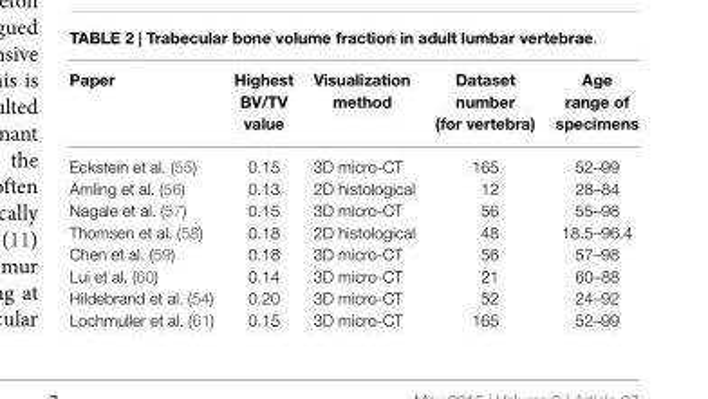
<table><thead><tr><td>Paper</td><td>Highest BV/TV value</td><td>Visualization method</td><td>Dataset number (for vertebra)</td><td>Age range of specimens</td></tr></thead><tbody><tr><td>Eckstein et al. (55)</td><td>0.15</td><td>3D micro-CT</td><td>165</td><td>52–99</td></tr><tr><td>Amling et al. (56)</td><td>0.13</td><td>2D histological</td><td>12</td><td>28–84</td></tr><tr><td>Nagale et al. (57)</td><td>0.15</td><td>3D micro-CT</td><td>56</td><td>55–98</td></tr><tr><td>Thomsen et al. (58)</td><td>0.18</td><td>2D histological</td><td>48</td><td>18.5–96.4</td></tr><tr><td>Chen et al. (59)</td><td>0.18</td><td>3D micro-CT</td><td>56</td><td>57–98</td></tr><tr><td>Lui et al. (60)</td><td>0.14</td><td>3D micro-CT</td><td>21</td><td>60–88</td></tr><tr><td>Hildebrand et al. (54)</td><td>0.20</td><td>3D micro-CT</td><td>52</td><td>24–92</td></tr><tr><td>Lochmuller et al. (61)</td><td>0.15</td><td>3D micro-CT</td><td>165</td><td>52–99</td></tr></tbody></table>